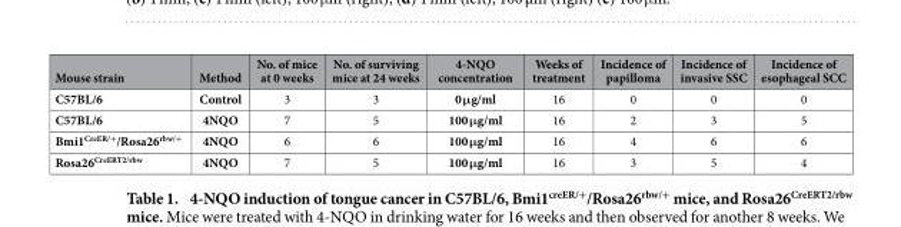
<table><thead><tr><td>Mouse strain</td><td>Method</td><td>No. of mice at 0 weeks</td><td>No. of surviving mice at 24 weeks</td><td>4-NQO concentration</td><td>Weeks of treatment</td><td>Incidence of papilloma</td><td>Incidence of invasive SSC</td><td>Incidence of esophageal SCC</td></tr></thead><tbody><tr><td>C57BL/6</td><td>Control</td><td>3</td><td>3</td><td>0 μg/ml</td><td>16</td><td>0</td><td>0</td><td>0</td></tr><tr><td>C57BL/6</td><td>4NQO</td><td>7</td><td>5</td><td>100 μg/ml</td><td>16</td><td>2</td><td>3</td><td>5</td></tr><tr><td>Bmi1<sup>CreER/+</sup>/Rosa26<sup>rbw/+</sup></td><td>4NQO</td><td>6</td><td>6</td><td>100 μg/ml</td><td>16</td><td>4</td><td>6</td><td>6</td></tr><tr><td>Rosa26<sup>CreERT2/rbw</sup></td><td>4NQO</td><td>7</td><td>5</td><td>100 μg/ml</td><td>16</td><td>3</td><td>5</td><td>4</td></tr></tbody></table>